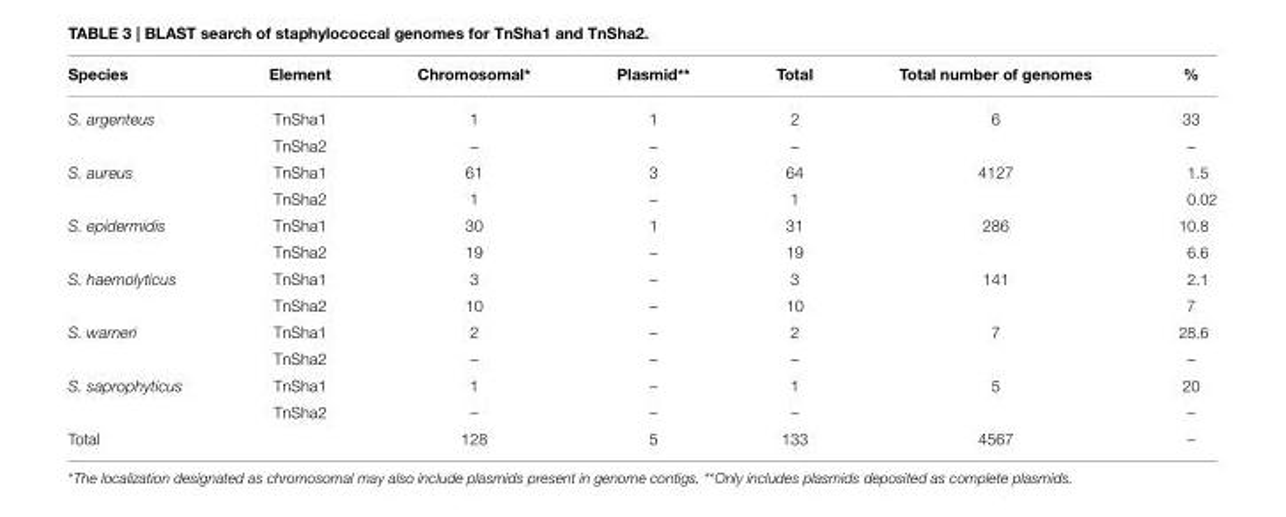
<table><thead><tr><td>Species</td><td>Element</td><td>Chromosomal*</td><td>Plasmid**</td><td>Total</td><td>Total number of genomes</td><td>%</td></tr></thead><tbody><tr><td rowspan="2">S. argenteus</td><td>TnSha1</td><td>1</td><td>1</td><td>2</td><td>6</td><td>33</td></tr><tr><td>TnSha2</td><td>–</td><td>–</td><td>–</td><td></td><td>–</td></tr><tr><td rowspan="2">S. aureus</td><td>TnSha1</td><td>61</td><td>3</td><td>64</td><td>4127</td><td>1.5</td></tr><tr><td>TnSha2</td><td>1</td><td>–</td><td>1</td><td></td><td>0.02</td></tr><tr><td rowspan="2">S. epidermidis</td><td>TnSha1</td><td>30</td><td>1</td><td>31</td><td>286</td><td>10.8</td></tr><tr><td>TnSha2</td><td>19</td><td>–</td><td>19</td><td></td><td>6.6</td></tr><tr><td rowspan="2">S. haemolyticus</td><td>TnSha1</td><td>3</td><td>–</td><td>3</td><td>141</td><td>2.1</td></tr><tr><td>TnSha2</td><td>10</td><td>–</td><td>10</td><td></td><td>7</td></tr><tr><td rowspan="2">S. warneri</td><td>TnSha1</td><td>2</td><td>–</td><td>2</td><td>7</td><td>28.6</td></tr><tr><td>TnSha2</td><td>–</td><td>–</td><td>–</td><td></td><td>–</td></tr><tr><td rowspan="2">S. saprophyticus</td><td>TnSha1</td><td>1</td><td>–</td><td>1</td><td>5</td><td>20</td></tr><tr><td>TnSha2</td><td>–</td><td>–</td><td>–</td><td></td><td>–</td></tr><tr><td>Total</td><td></td><td>128</td><td>5</td><td>133</td><td>4567</td><td>–</td></tr></tbody></table>